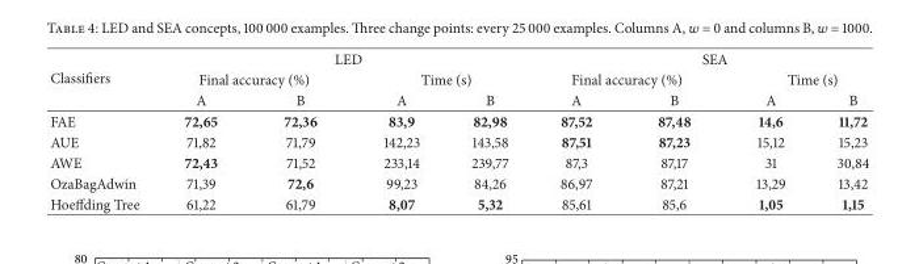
<table><thead><tr><td rowspan="3">Classifiers</td><td colspan="4">LED</td><td colspan="4">SEA</td></tr><tr><td colspan="2">Final accuracy (%)</td><td colspan="2">Time (s)</td><td colspan="2">Final accuracy (%)</td><td colspan="2">Time (s)</td></tr><tr><td>A</td><td>B</td><td>A</td><td>B</td><td>A</td><td>B</td><td>A</td><td>B</td></tr></thead><tbody><tr><td>FAE</td><td>72,65</td><td>72,36</td><td>83,9</td><td>82,98</td><td>87,52</td><td>87,48</td><td>14,6</td><td>11,72</td></tr><tr><td>AUE</td><td>71,82</td><td>71,79</td><td>142,23</td><td>143,58</td><td>87,51</td><td>87,23</td><td>15,12</td><td>15,23</td></tr><tr><td>AWE</td><td>72,43</td><td>71,52</td><td>233,14</td><td>239,77</td><td>87,3</td><td>87,17</td><td>31</td><td>30,84</td></tr><tr><td>OzaBagAdwin</td><td>71,39</td><td>72,6</td><td>99,23</td><td>84,26</td><td>86,97</td><td>87,21</td><td>13,29</td><td>13,42</td></tr><tr><td>Hoeffding Tree</td><td>61,22</td><td>61,79</td><td>8,07</td><td>5,32</td><td>85,61</td><td>85,6</td><td>1,05</td><td>1,15</td></tr></tbody></table>